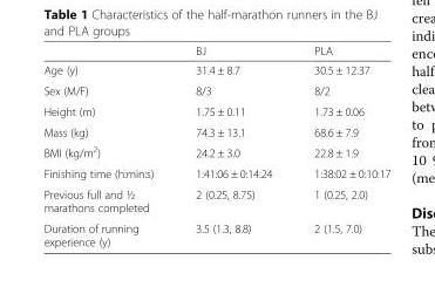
<table><thead><tr><td></td><td>BJ</td><td>PLA</td></tr></thead><tbody><tr><td>Age (y)</td><td>31.4 ± 8.7</td><td>30.5 ± 12.37</td></tr><tr><td>Sex (M/F)</td><td>8/3</td><td>8/2</td></tr><tr><td>Height (m)</td><td>1.75 ± 0.11</td><td>1.73 ± 0.06</td></tr><tr><td>Mass (kg)</td><td>74.3 ± 13.1</td><td>68.6 ± 7.9</td></tr><tr><td>BMI (kg/m<sup>2</sup>)</td><td>24.2 ± 3.0</td><td>22.8 ± 1.9</td></tr><tr><td>Finishing time (h:min:s)</td><td>1:41:06 ± 0:14:24</td><td>1:38:02 ± 0:10:17</td></tr><tr><td>Previous full and ½ marathons completed</td><td>2 (0.25, 8.75)</td><td>1 (0.25, 2.0)</td></tr><tr><td>Duration of running experience (y)</td><td>3.5 (1.3, 8.8)</td><td>2 (1.5, 7.0)</td></tr></tbody></table>